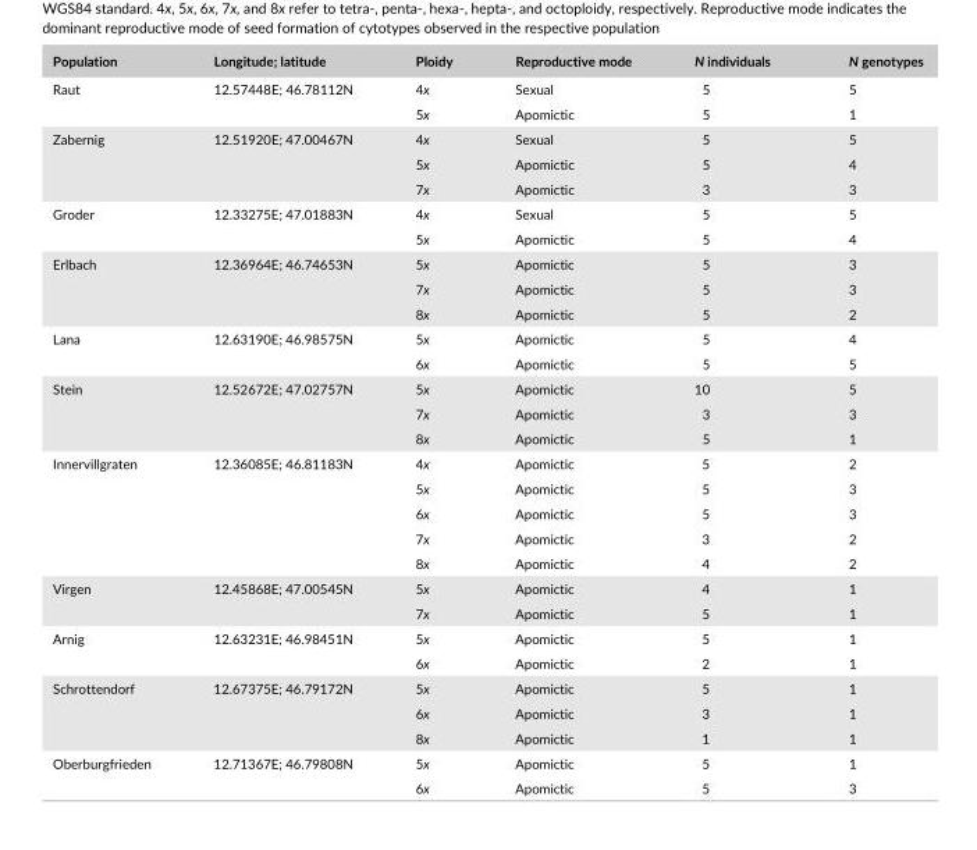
<table><thead><tr><td>Population</td><td>Longitude; latitude</td><td>Ploidy</td><td>Reproductive mode</td><td>N individuals</td><td>N genotypes</td></tr></thead><tbody><tr><td rowspan="2">Raut</td><td rowspan="2">12.57448E; 46.78112N</td><td>4x</td><td>Sexual</td><td>5</td><td>5</td></tr><tr><td>5x</td><td>Apomictic</td><td>5</td><td>1</td></tr><tr><td rowspan="3">Zabernig</td><td rowspan="3">12.51920E; 47.00467N</td><td>4x</td><td>Sexual</td><td>5</td><td>5</td></tr><tr><td>5x</td><td>Apomictic</td><td>5</td><td>4</td></tr><tr><td>7x</td><td>Apomictic</td><td>3</td><td>3</td></tr><tr><td rowspan="2">Groder</td><td rowspan="2">12.33275E; 47.01883N</td><td>4x</td><td>Sexual</td><td>5</td><td>5</td></tr><tr><td>5x</td><td>Apomictic</td><td>5</td><td>4</td></tr><tr><td rowspan="3">Erlbach</td><td rowspan="3">12.36964E; 46.74653N</td><td>5x</td><td>Apomictic</td><td>5</td><td>3</td></tr><tr><td>7x</td><td>Apomictic</td><td>5</td><td>3</td></tr><tr><td>8x</td><td>Apomictic</td><td>5</td><td>2</td></tr><tr><td rowspan="2">Lana</td><td rowspan="2">12.63190E; 46.98575N</td><td>5x</td><td>Apomictic</td><td>5</td><td>4</td></tr><tr><td>6x</td><td>Apomictic</td><td>5</td><td>5</td></tr><tr><td rowspan="3">Stein</td><td rowspan="3">12.52672E; 47.02757N</td><td>5x</td><td>Apomictic</td><td>10</td><td>5</td></tr><tr><td>7x</td><td>Apomictic</td><td>3</td><td>3</td></tr><tr><td>8x</td><td>Apomictic</td><td>5</td><td>1</td></tr><tr><td rowspan="5">Innervillgraten</td><td rowspan="5">12.36085E; 46.81183N</td><td>4x</td><td>Apomictic</td><td>5</td><td>2</td></tr><tr><td>5x</td><td>Apomictic</td><td>5</td><td>3</td></tr><tr><td>6x</td><td>Apomictic</td><td>5</td><td>3</td></tr><tr><td>7x</td><td>Apomictic</td><td>3</td><td>2</td></tr><tr><td>8x</td><td>Apomictic</td><td>4</td><td>2</td></tr><tr><td rowspan="2">Virgen</td><td rowspan="2">12.45868E; 47.00545N</td><td>5x</td><td>Apomictic</td><td>4</td><td>1</td></tr><tr><td>7x</td><td>Apomictic</td><td>5</td><td>1</td></tr><tr><td rowspan="2">Arnig</td><td rowspan="2">12.63231E; 46.98451N</td><td>5x</td><td>Apomictic</td><td>5</td><td>1</td></tr><tr><td>6x</td><td>Apomictic</td><td>2</td><td>1</td></tr><tr><td rowspan="3">Schrottendorf</td><td rowspan="3">12.67375E; 46.79172N</td><td>5x</td><td>Apomictic</td><td>5</td><td>1</td></tr><tr><td>6x</td><td>Apomictic</td><td>3</td><td>1</td></tr><tr><td>8x</td><td>Apomictic</td><td>1</td><td>1</td></tr><tr><td rowspan="2">Oberburgfrieden</td><td rowspan="2">12.71367E; 46.79808N</td><td>5x</td><td>Apomictic</td><td>5</td><td>1</td></tr><tr><td>6x</td><td>Apomictic</td><td>5</td><td>3</td></tr></tbody></table>